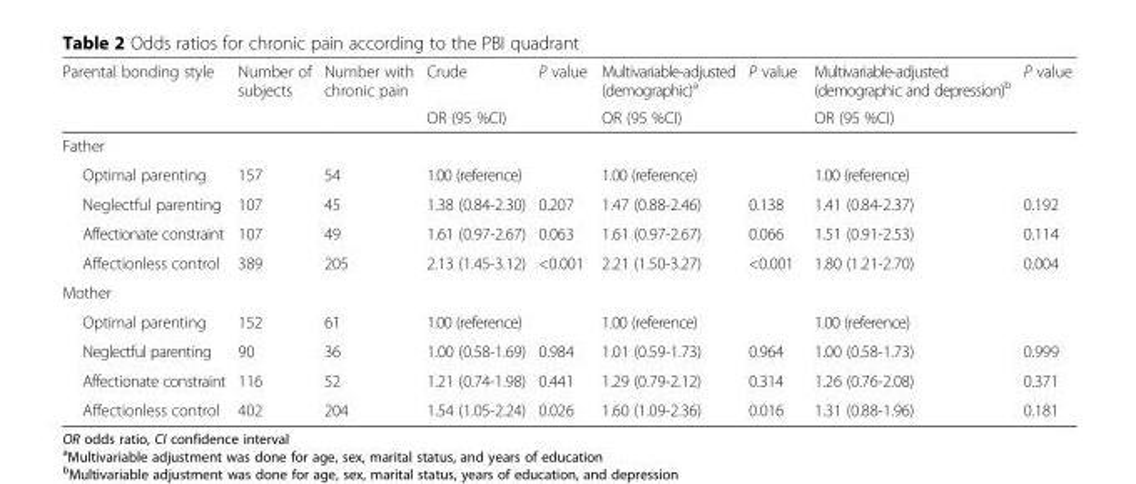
<table><thead><tr><td rowspan="2">Parental bonding style</td><td rowspan="2">Number of subjects</td><td rowspan="2">Number with chronic pain</td><td rowspan="2">Crude OR (95 %CI)</td><td rowspan="2">P value</td><td rowspan="2">Multivariable-adjusted (demographic)<sup>a</sup> OR (95 %CI)</td><td rowspan="2">P value</td><td rowspan="2">Multivariable-adjusted (demographic and depression)<sup>b</sup> OR (95 %CI)</td><td rowspan="2">P value</td></tr><tr></tr></thead><tbody><tr><td colspan="9">Father</td></tr><tr><td>Optimal parenting</td><td>157</td><td>54</td><td>1.00 (reference)</td><td></td><td>1.00 (reference)</td><td></td><td>1.00 (reference)</td><td></td></tr><tr><td>Neglectful parenting</td><td>107</td><td>45</td><td>1.38 (0.84-2.30)</td><td>0.207</td><td>1.47 (0.88-2.46)</td><td>0.138</td><td>1.41 (0.84-2.37)</td><td>0.192</td></tr><tr><td>Affectionate constraint</td><td>107</td><td>49</td><td>1.61 (0.97-2.67)</td><td>0.063</td><td>1.61 (0.97-2.67)</td><td>0.066</td><td>1.51 (0.91-2.53)</td><td>0.114</td></tr><tr><td>Affectionless control</td><td>389</td><td>205</td><td>2.13 (1.45-3.12)</td><td>&lt;0.001</td><td>2.21 (1.50-3.27)</td><td>&lt;0.001</td><td>1.80 (1.21-2.70)</td><td>0.004</td></tr><tr><td colspan="9">Mother</td></tr><tr><td>Optimal parenting</td><td>152</td><td>61</td><td>1.00 (reference)</td><td></td><td>1.00 (reference)</td><td></td><td>1.00 (reference)</td><td></td></tr><tr><td>Neglectful parenting</td><td>90</td><td>36</td><td>1.00 (0.58-1.69)</td><td>0.984</td><td>1.01 (0.59-1.73)</td><td>0.964</td><td>1.00 (0.58-1.73)</td><td>0.999</td></tr><tr><td>Affectionate constraint</td><td>116</td><td>52</td><td>1.21 (0.74-1.98)</td><td>0.441</td><td>1.29 (0.79-2.12)</td><td>0.314</td><td>1.26 (0.76-2.08)</td><td>0.371</td></tr><tr><td>Affectionless control</td><td>402</td><td>204</td><td>1.54 (1.05-2.24)</td><td>0.026</td><td>1.60 (1.09-2.36)</td><td>0.016</td><td>1.31 (0.88-1.96)</td><td>0.181</td></tr></tbody></table>